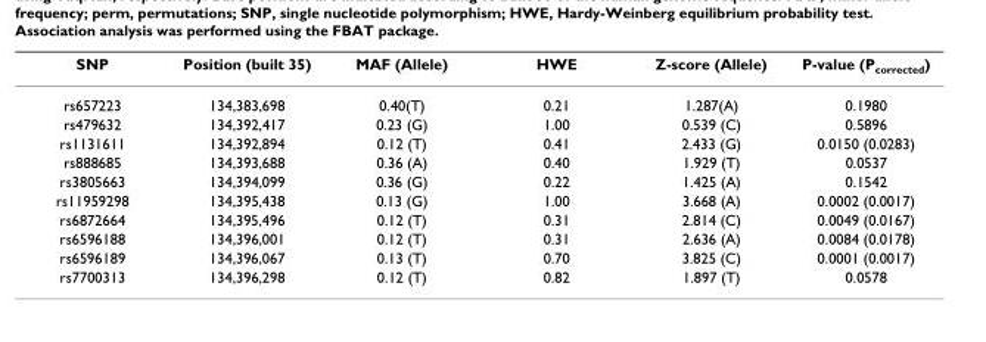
<table><thead><tr><td>SNP</td><td>Position (built 35)</td><td>MAF (Allele)</td><td>HWE</td><td>Z-score (Allele)</td><td>P-value (Pcorrected)</td></tr></thead><tbody><tr><td>rs657223</td><td>134,383,698</td><td>0.40(T)</td><td>0.21</td><td>1.287(A)</td><td>0.1980</td></tr><tr><td>rs479632</td><td>134,392,417</td><td>0.23 (G)</td><td>1.00</td><td>0.539 (C)</td><td>0.5896</td></tr><tr><td>rs1131611</td><td>134,392,894</td><td>0.12 (T)</td><td>0.41</td><td>2.433 (G)</td><td>0.0150 (0.0283)</td></tr><tr><td>rs888685</td><td>134,393,688</td><td>0.36 (A)</td><td>0.40</td><td>1.929 (T)</td><td>0.0537</td></tr><tr><td>rs3805663</td><td>134,394,099</td><td>0.36 (G)</td><td>0.22</td><td>1.425 (A)</td><td>0.1542</td></tr><tr><td>rs11959298</td><td>134,395,438</td><td>0.13 (G)</td><td>1.00</td><td>3.668 (A)</td><td>0.0002 (0.0017)</td></tr><tr><td>rs6872664</td><td>134,395,496</td><td>0.12 (T)</td><td>0.31</td><td>2.814 (C)</td><td>0.0049 (0.0167)</td></tr><tr><td>rs6596188</td><td>134,396,001</td><td>0.12 (T)</td><td>0.31</td><td>2.636 (A)</td><td>0.0084 (0.0178)</td></tr><tr><td>rs6596189</td><td>134,396,067</td><td>0.13 (T)</td><td>0.70</td><td>3.825 (C)</td><td>0.0001 (0.0017)</td></tr><tr><td>rs7700313</td><td>134,396,298</td><td>0.12 (T)</td><td>0.82</td><td>1.897 (T)</td><td>0.0578</td></tr></tbody></table>